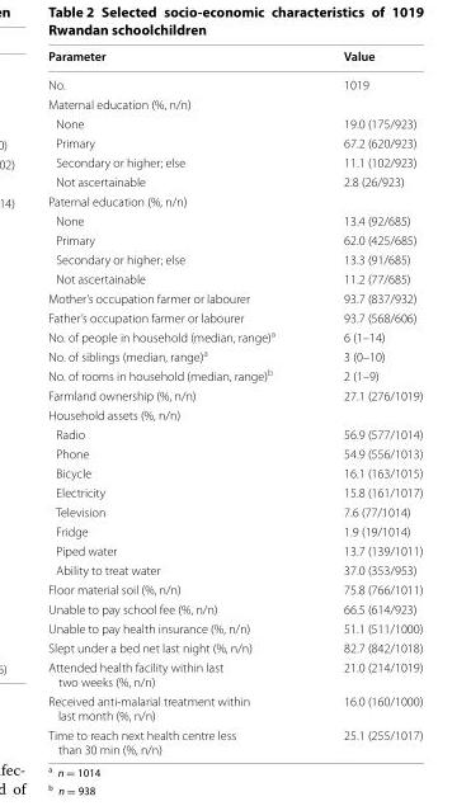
<table><thead><tr><td>Parameter</td><td>Value</td></tr></thead><tbody><tr><td>No.</td><td>1019</td></tr><tr><td colspan="2">Maternal education (%, n/n)</td></tr><tr><td>None</td><td>19.0 (175/923)</td></tr><tr><td>Primary</td><td>67.2 (620/923)</td></tr><tr><td>Secondary or higher; else</td><td>11.1 (102/923)</td></tr><tr><td>Not ascertainable</td><td>2.8 (26/923)</td></tr><tr><td colspan="2">Paternal education (%, n/n)</td></tr><tr><td>None</td><td>13.4 (92/685)</td></tr><tr><td>Primary</td><td>62.0 (425/685)</td></tr><tr><td>Secondary or higher; else</td><td>13.3 (91/685)</td></tr><tr><td>Not ascertainable</td><td>11.2 (77/685)</td></tr><tr><td>Mother’s occupation farmer or labourer</td><td>93.7 (837/932)</td></tr><tr><td>Father’s occupation farmer or labourer</td><td>93.7 (568/606)</td></tr><tr><td>No. of people in household (median, range)<sup>a</sup></td><td>6 (1–14)</td></tr><tr><td>No. of siblings (median, range)<sup>a</sup></td><td>3 (0–10)</td></tr><tr><td>No. of rooms in household (median, range)<sup>b</sup></td><td>2 (1–9)</td></tr><tr><td>Farmland ownership (%, n/n)</td><td>27.1 (276/1019)</td></tr><tr><td colspan="2">Household assets (%, n/n)</td></tr><tr><td>Radio</td><td>56.9 (577/1014)</td></tr><tr><td>Phone</td><td>54.9 (556/1013)</td></tr><tr><td>Bicycle</td><td>16.1 (163/1015)</td></tr><tr><td>Electricity</td><td>15.8 (161/1017)</td></tr><tr><td>Television</td><td>7.6 (77/1014)</td></tr><tr><td>Fridge</td><td>1.9 (19/1014)</td></tr><tr><td>Piped water</td><td>13.7 (139/1011)</td></tr><tr><td>Ability to treat water</td><td>37.0 (353/953)</td></tr><tr><td>Floor material soil (%, n/n)</td><td>75.8 (766/1011)</td></tr><tr><td>Unable to pay school fee (%, n/n)</td><td>66.5 (614/923)</td></tr><tr><td>Unable to pay health insurance (%, n/n)</td><td>51.1 (511/1000)</td></tr><tr><td>Slept under a bed net last night (%, n/n)</td><td>82.7 (842/1018)</td></tr><tr><td>Attended health facility within last two weeks (%, n/n)</td><td>21.0 (214/1019)</td></tr><tr><td>Received anti‑malarial treatment within last month (%, n/n)</td><td>16.0 (160/1000)</td></tr><tr><td>Time to reach next health centre less than 30 min (%, n/n)</td><td>25.1 (255/1017)</td></tr></tbody></table>